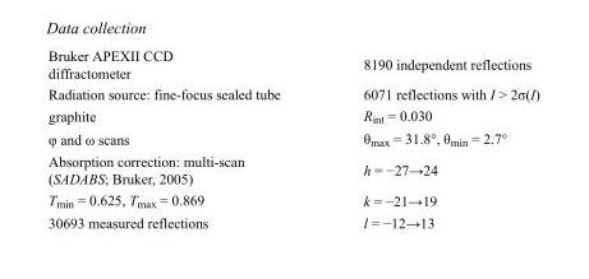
<table><tbody><tr><td>Bruker APEXII CCD diffractometer</td><td>8190 independent reflections</td></tr><tr><td>Radiation source: fine-focus sealed tube</td><td>6071 reflections with I &gt; 2σ(I)</td></tr><tr><td>graphite</td><td>R<sub>int</sub> = 0.030</td></tr><tr><td>φ and ω scans</td><td>θ<sub>max</sub> = 31.8°, θ<sub>min</sub> = 2.7°</td></tr><tr><td>Absorption correction: multi-scan (SADABS; Bruker, 2005)</td><td>h = −27→24</td></tr><tr><td>T<sub>min</sub> = 0.625, T<sub>max</sub> = 0.869</td><td>k = −21→19</td></tr><tr><td>30693 measured reflections</td><td>l = −12→13</td></tr></tbody></table>